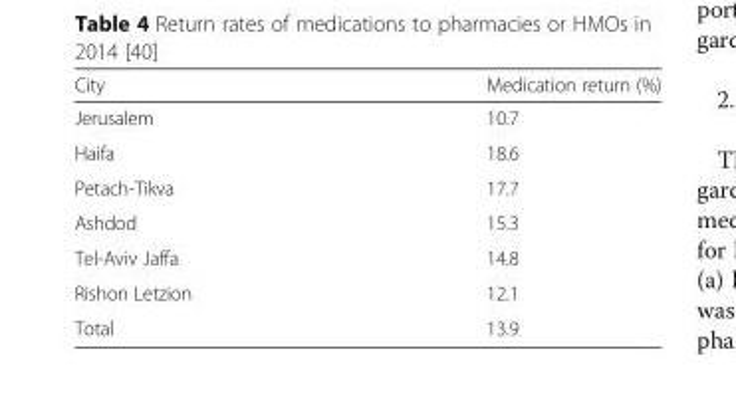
<table><thead><tr><td>City</td><td>Medication return (%)</td></tr></thead><tbody><tr><td>Jerusalem</td><td>10.7</td></tr><tr><td>Haifa</td><td>18.6</td></tr><tr><td>Petach-Tikva</td><td>17.7</td></tr><tr><td>Ashdod</td><td>15.3</td></tr><tr><td>Tel-Aviv Jaffa</td><td>14.8</td></tr><tr><td>Rishon Letzion</td><td>12.1</td></tr><tr><td>Total</td><td>13.9</td></tr></tbody></table>